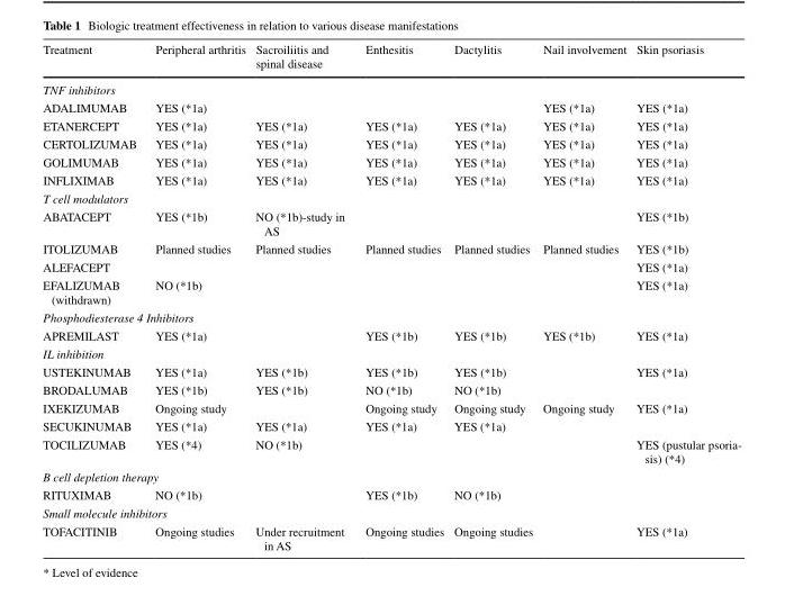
<table><thead><tr><td>Treatment</td><td>Peripheral arthritis</td><td>Sacroiliitis and spinal disease</td><td>Enthesitis</td><td>Dactylitis</td><td>Nail involvement</td><td>Skin psoriasis</td></tr></thead><tbody><tr><td colspan="7">TNF inhibitors</td></tr><tr><td>ADALIMUMAB</td><td>YES (*1a)</td><td></td><td></td><td></td><td>YES (*1a)</td><td>YES (*1a)</td></tr><tr><td>ETANERCEPT</td><td>YES (*1a)</td><td>YES (*1a)</td><td>YES (*1a)</td><td>YES (*1a)</td><td>YES (*1a)</td><td>YES (*1a)</td></tr><tr><td>CERTOLIZUMAB</td><td>YES (*1a)</td><td>YES (*1a)</td><td>YES (*1a)</td><td>YES (*1a)</td><td>YES (*1a)</td><td>YES (*1a)</td></tr><tr><td>GOLIMUMAB</td><td>YES (*1a)</td><td>YES (*1a)</td><td>YES (*1a)</td><td>YES (*1a)</td><td>YES (*1a)</td><td>YES (*1a)</td></tr><tr><td>INFLIXIMAB</td><td>YES (*1a)</td><td>YES (*1a)</td><td>YES (*1a)</td><td>YES (*1a)</td><td>YES (*1a)</td><td>YES (*1a)</td></tr><tr><td colspan="7">T cell modulators</td></tr><tr><td>ABATACEPT</td><td>YES (*1b)</td><td>NO (*1b)-study in AS</td><td></td><td></td><td></td><td>YES (*1b)</td></tr><tr><td>ITOLIZUMAB</td><td>Planned studies</td><td>Planned studies</td><td>Planned studies</td><td>Planned studies</td><td>Planned studies</td><td>YES (*1b)</td></tr><tr><td>ALEFACEPT</td><td></td><td></td><td></td><td></td><td></td><td>YES (*1a)</td></tr><tr><td>EFALIZUMAB (withdrawn)</td><td>NO (*1b)</td><td></td><td></td><td></td><td></td><td>YES (*1a)</td></tr><tr><td colspan="7">Phosphodiesterase 4 Inhibitors</td></tr><tr><td>APREMILAST</td><td>YES (*1a)</td><td></td><td>YES (*1b)</td><td>YES (*1b)</td><td>YES (*1b)</td><td>YES (*1a)</td></tr><tr><td colspan="7">IL inhibition</td></tr><tr><td>USTEKINUMAB</td><td>YES (*1a)</td><td>YES (*1b)</td><td>YES (*1b)</td><td>YES (*1b)</td><td></td><td>YES (*1a)</td></tr><tr><td>BRODALUMAB</td><td>YES (*1b)</td><td>YES (*1b)</td><td>NO (*1b)</td><td>NO (*1b)</td><td></td><td></td></tr><tr><td>IXEKIZUMAB</td><td>Ongoing study</td><td></td><td>Ongoing study</td><td>Ongoing study</td><td>Ongoing study</td><td>YES (*1a)</td></tr><tr><td>SECUKINUMAB</td><td>YES (*1a)</td><td>YES (*1a)</td><td>YES (*1a)</td><td>YES (*1a)</td><td></td><td></td></tr><tr><td>TOCILIZUMAB</td><td>YES (*4)</td><td>NO (*1b)</td><td></td><td></td><td></td><td>YES (pustular psoria- sis) (*4)</td></tr><tr><td colspan="7">B cell depletion therapy</td></tr><tr><td>RITUXIMAB</td><td>NO (*1b)</td><td></td><td>YES (*1b)</td><td>NO (*1b)</td><td></td><td></td></tr><tr><td colspan="7">Small molecule inhibitors</td></tr><tr><td>TOFACITINIB</td><td>Ongoing studies</td><td>Under recruitment in AS</td><td>Ongoing studies</td><td>Ongoing studies</td><td></td><td>YES (*1a)</td></tr></tbody></table>